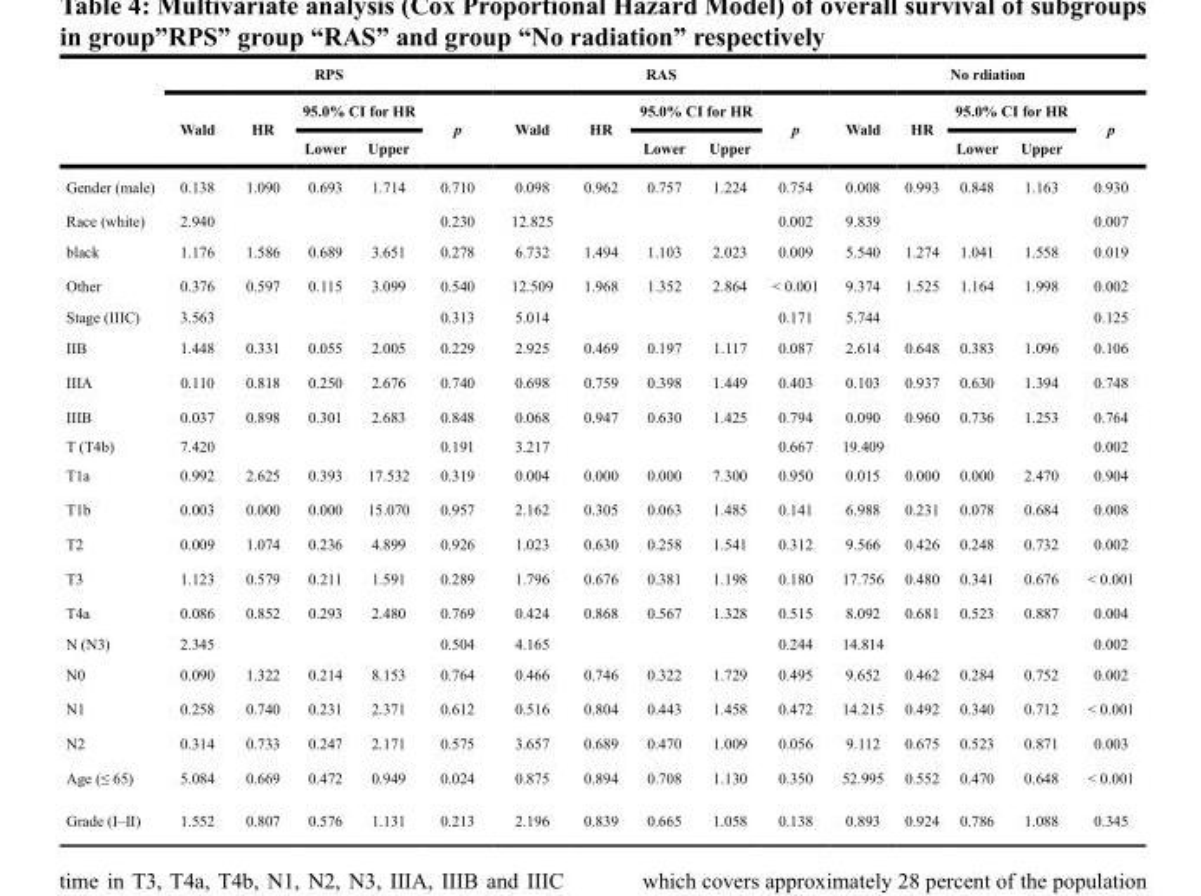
<table><thead><tr><td rowspan="3"></td><td colspan="5">RPS</td><td colspan="5">RAS</td><td colspan="5">No rdiation</td></tr><tr><td rowspan="2">Wald</td><td rowspan="2">HR</td><td colspan="2">95.0% CI for HR</td><td rowspan="2">p</td><td rowspan="2">Wald</td><td rowspan="2">HR</td><td colspan="2">95.0% CI for HR</td><td rowspan="2">p</td><td rowspan="2">Wald</td><td rowspan="2">HR</td><td colspan="2">95.0% CI for HR</td><td rowspan="2">p</td></tr><tr><td>Lower</td><td>Upper</td><td>Lower</td><td>Upper</td><td>Lower</td><td>Upper</td></tr></thead><tbody><tr><td>Gender (male)</td><td>0.138</td><td>1.090</td><td>0.693</td><td>1.714</td><td>0.710</td><td>0.098</td><td>0.962</td><td>0.757</td><td>1.224</td><td>0.754</td><td>0.008</td><td>0.993</td><td>0.848</td><td>1.163</td><td>0.930</td></tr><tr><td>Race (white)</td><td>2.940</td><td></td><td></td><td></td><td>0.230</td><td>12.825</td><td></td><td></td><td></td><td>0.002</td><td>9.839</td><td></td><td></td><td></td><td>0.007</td></tr><tr><td>black</td><td>1.176</td><td>1.586</td><td>0.689</td><td>3.651</td><td>0.278</td><td>6.732</td><td>1.494</td><td>1.103</td><td>2.023</td><td>0.009</td><td>5.540</td><td>1.274</td><td>1.041</td><td>1.558</td><td>0.019</td></tr><tr><td>Other</td><td>0.376</td><td>0.597</td><td>0.115</td><td>3.099</td><td>0.540</td><td>12.509</td><td>1.968</td><td>1.352</td><td>2.864</td><td>&lt; 0.001</td><td>9.374</td><td>1.525</td><td>1.164</td><td>1.998</td><td>0.002</td></tr><tr><td>Stage (IIIC)</td><td>3.563</td><td></td><td></td><td></td><td>0.313</td><td>5.014</td><td></td><td></td><td></td><td>0.171</td><td>5.744</td><td></td><td></td><td></td><td>0.125</td></tr><tr><td>IIB</td><td>1.448</td><td>0.331</td><td>0.055</td><td>2.005</td><td>0.229</td><td>2.925</td><td>0.469</td><td>0.197</td><td>1.117</td><td>0.087</td><td>2.614</td><td>0.648</td><td>0.383</td><td>1.096</td><td>0.106</td></tr><tr><td>IIIA</td><td>0.110</td><td>0.818</td><td>0.250</td><td>2.676</td><td>0.740</td><td>0.698</td><td>0.759</td><td>0.398</td><td>1.449</td><td>0.403</td><td>0.103</td><td>0.937</td><td>0.630</td><td>1.394</td><td>0.748</td></tr><tr><td>IIIB</td><td>0.037</td><td>0.898</td><td>0.301</td><td>2.683</td><td>0.848</td><td>0.068</td><td>0.947</td><td>0.630</td><td>1.425</td><td>0.794</td><td>0.090</td><td>0.960</td><td>0.736</td><td>1.253</td><td>0.764</td></tr><tr><td>T (T4b)</td><td>7.420</td><td></td><td></td><td></td><td>0.191</td><td>3.217</td><td></td><td></td><td></td><td>0.667</td><td>19.409</td><td></td><td></td><td></td><td>0.002</td></tr><tr><td>T1a</td><td>0.992</td><td>2.625</td><td>0.393</td><td>17.532</td><td>0.319</td><td>0.004</td><td>0.000</td><td>0.000</td><td>7.300</td><td>0.950</td><td>0.015</td><td>0.000</td><td>0.000</td><td>2.470</td><td>0.904</td></tr><tr><td>T1b</td><td>0.003</td><td>0.000</td><td>0.000</td><td>15.070</td><td>0.957</td><td>2.162</td><td>0.305</td><td>0.063</td><td>1.485</td><td>0.141</td><td>6.988</td><td>0.231</td><td>0.078</td><td>0.684</td><td>0.008</td></tr><tr><td>T2</td><td>0.009</td><td>1.074</td><td>0.236</td><td>4.899</td><td>0.926</td><td>1.023</td><td>0.630</td><td>0.258</td><td>1.541</td><td>0.312</td><td>9.566</td><td>0.426</td><td>0.248</td><td>0.732</td><td>0.002</td></tr><tr><td>T3</td><td>1.123</td><td>0.579</td><td>0.211</td><td>1.591</td><td>0.289</td><td>1.796</td><td>0.676</td><td>0.381</td><td>1.198</td><td>0.180</td><td>17.756</td><td>0.480</td><td>0.341</td><td>0.676</td><td>&lt; 0.001</td></tr><tr><td>T4a</td><td>0.086</td><td>0.852</td><td>0.293</td><td>2.480</td><td>0.769</td><td>0.424</td><td>0.868</td><td>0.567</td><td>1.328</td><td>0.515</td><td>8.092</td><td>0.681</td><td>0.523</td><td>0.887</td><td>0.004</td></tr><tr><td>N (N3)</td><td>2.345</td><td></td><td></td><td></td><td>0.504</td><td>4.165</td><td></td><td></td><td></td><td>0.244</td><td>14.814</td><td></td><td></td><td></td><td>0.002</td></tr><tr><td>N0</td><td>0.090</td><td>1.322</td><td>0.214</td><td>8.153</td><td>0.764</td><td>0.466</td><td>0.746</td><td>0.322</td><td>1.729</td><td>0.495</td><td>9.652</td><td>0.462</td><td>0.284</td><td>0.752</td><td>0.002</td></tr><tr><td>N1</td><td>0.258</td><td>0.740</td><td>0.231</td><td>2.371</td><td>0.612</td><td>0.516</td><td>0.804</td><td>0.443</td><td>1.458</td><td>0.472</td><td>14.215</td><td>0.492</td><td>0.340</td><td>0.712</td><td>&lt; 0.001</td></tr><tr><td>N2</td><td>0.314</td><td>0.733</td><td>0.247</td><td>2.171</td><td>0.575</td><td>3.657</td><td>0.689</td><td>0.470</td><td>1.009</td><td>0.056</td><td>9.112</td><td>0.675</td><td>0.523</td><td>0.871</td><td>0.003</td></tr><tr><td>Age (≤ 65)</td><td>5.084</td><td>0.669</td><td>0.472</td><td>0.949</td><td>0.024</td><td>0.875</td><td>0.894</td><td>0.708</td><td>1.130</td><td>0.350</td><td>52.995</td><td>0.552</td><td>0.470</td><td>0.648</td><td>&lt; 0.001</td></tr><tr><td>Grade (I–II)</td><td>1.552</td><td>0.807</td><td>0.576</td><td>1.131</td><td>0.213</td><td>2.196</td><td>0.839</td><td>0.665</td><td>1.058</td><td>0.138</td><td>0.893</td><td>0.924</td><td>0.786</td><td>1.088</td><td>0.345</td></tr></tbody></table>